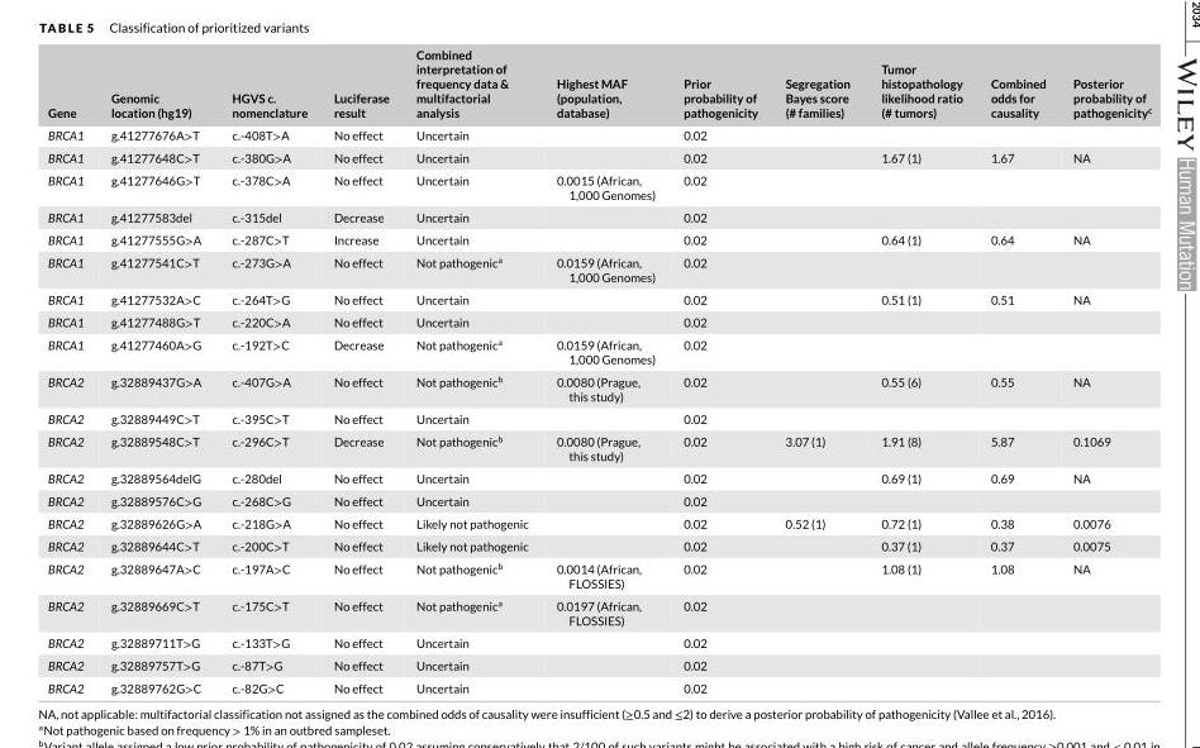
<table><thead><tr><td>Gene</td><td>Genomic location (hg19)</td><td>HGVS c. nomenclature</td><td>Luciferase result</td><td>Combined interpretation of frequency data &amp; multifactorial analysis</td><td>Highest MAF (population, database)</td><td>Prior probability of pathogenicity</td><td>Segregation Bayes score (# families)</td><td>Tumor histopathology likelihood ratio (# tumors)</td><td>Combined odds for causality</td><td>Posterior probability of pathogenicity<sup>c</sup></td></tr></thead><tbody><tr><td>BRCA1</td><td>g.41277676A&gt;T</td><td>c.-408T&gt;A</td><td>No effect</td><td>Uncertain</td><td></td><td>0.02</td><td></td><td></td><td></td><td></td></tr><tr><td>BRCA1</td><td>g.41277648C&gt;T</td><td>c.-380G&gt;A</td><td>No effect</td><td>Uncertain</td><td></td><td>0.02</td><td></td><td>1.67 (1)</td><td>1.67</td><td>NA</td></tr><tr><td>BRCA1</td><td>g.41277646G&gt;T</td><td>c.-378C&gt;A</td><td>No effect</td><td>Uncertain</td><td>0.0015 (African, 1,000 Genomes)</td><td>0.02</td><td></td><td></td><td></td><td></td></tr><tr><td>BRCA1</td><td>g.41277583del</td><td>c.-315del</td><td>Decrease</td><td>Uncertain</td><td></td><td>0.02</td><td></td><td></td><td></td><td></td></tr><tr><td>BRCA1</td><td>g.41277555G&gt;A</td><td>c.-287C&gt;T</td><td>Increase</td><td>Uncertain</td><td></td><td>0.02</td><td></td><td>0.64 (1)</td><td>0.64</td><td>NA</td></tr><tr><td>BRCA1</td><td>g.41277541C&gt;T</td><td>c.-273G&gt;A</td><td>No effect</td><td>Not pathogenic<sup>a</sup></td><td>0.0159 (African, 1,000 Genomes)</td><td>0.02</td><td></td><td></td><td></td><td></td></tr><tr><td>BRCA1</td><td>g.41277532A&gt;C</td><td>c.-264T&gt;G</td><td>No effect</td><td>Uncertain</td><td></td><td>0.02</td><td></td><td>0.51 (1)</td><td>0.51</td><td>NA</td></tr><tr><td>BRCA1</td><td>g.41277488G&gt;T</td><td>c.-220C&gt;A</td><td>No effect</td><td>Uncertain</td><td></td><td>0.02</td><td></td><td></td><td></td><td></td></tr><tr><td>BRCA1</td><td>g.41277460A&gt;G</td><td>c.-192T&gt;C</td><td>Decrease</td><td>Not pathogenic<sup>a</sup></td><td>0.0159 (African, 1,000 Genomes)</td><td>0.02</td><td></td><td></td><td></td><td></td></tr><tr><td>BRCA2</td><td>g.32889437G&gt;A</td><td>c.-407G&gt;A</td><td>No effect</td><td>Not pathogenic<sup>b</sup></td><td>0.0080 (Prague, this study)</td><td>0.02</td><td></td><td>0.55 (6)</td><td>0.55</td><td>NA</td></tr><tr><td>BRCA2</td><td>g.32889449C&gt;T</td><td>c.-395C&gt;T</td><td>No effect</td><td>Uncertain</td><td></td><td>0.02</td><td></td><td></td><td></td><td></td></tr><tr><td>BRCA2</td><td>g.32889548C&gt;T</td><td>c.-296C&gt;T</td><td>Decrease</td><td>Not pathogenic<sup>b</sup></td><td>0.0080 (Prague, this study)</td><td>0.02</td><td>3.07 (1)</td><td>1.91 (8)</td><td>5.87</td><td>0.1069</td></tr><tr><td>BRCA2</td><td>g.32889564delG</td><td>c.-280del</td><td>No effect</td><td>Uncertain</td><td></td><td>0.02</td><td></td><td>0.69 (1)</td><td>0.69</td><td>NA</td></tr><tr><td>BRCA2</td><td>g.32889576C&gt;G</td><td>c.-268C&gt;G</td><td>No effect</td><td>Uncertain</td><td></td><td>0.02</td><td></td><td></td><td></td><td></td></tr><tr><td>BRCA2</td><td>g.32889626G&gt;A</td><td>c.-218G&gt;A</td><td>No effect</td><td>Likely not pathogenic</td><td></td><td>0.02</td><td>0.52 (1)</td><td>0.72 (1)</td><td>0.38</td><td>0.0076</td></tr><tr><td>BRCA2</td><td>g.32889644C&gt;T</td><td>c.-200C&gt;T</td><td>No effect</td><td>Likely not pathogenic</td><td></td><td>0.02</td><td></td><td>0.37 (1)</td><td>0.37</td><td>0.0075</td></tr><tr><td>BRCA2</td><td>g.32889647A&gt;C</td><td>c.-197A&gt;C</td><td>No effect</td><td>Not pathogenic<sup>b</sup></td><td>0.0014 (African, FLOSSIES)</td><td>0.02</td><td></td><td>1.08 (1)</td><td>1.08</td><td>NA</td></tr><tr><td>BRCA2</td><td>g.32889669C&gt;T</td><td>c.-175C&gt;T</td><td>No effect</td><td>Not pathogenic<sup>a</sup></td><td>0.0197 (African, FLOSSIES)</td><td>0.02</td><td></td><td></td><td></td><td></td></tr><tr><td>BRCA2</td><td>g.32889711T&gt;G</td><td>c.-133T&gt;G</td><td>No effect</td><td>Uncertain</td><td></td><td>0.02</td><td></td><td></td><td></td><td></td></tr><tr><td>BRCA2</td><td>g.32889757T&gt;G</td><td>c.-87T&gt;G</td><td>No effect</td><td>Uncertain</td><td></td><td>0.02</td><td></td><td></td><td></td><td></td></tr><tr><td>BRCA2</td><td>g.32889762G&gt;C</td><td>c.-82G&gt;C</td><td>No effect</td><td>Uncertain</td><td></td><td>0.02</td><td></td><td></td><td></td><td></td></tr></tbody></table>